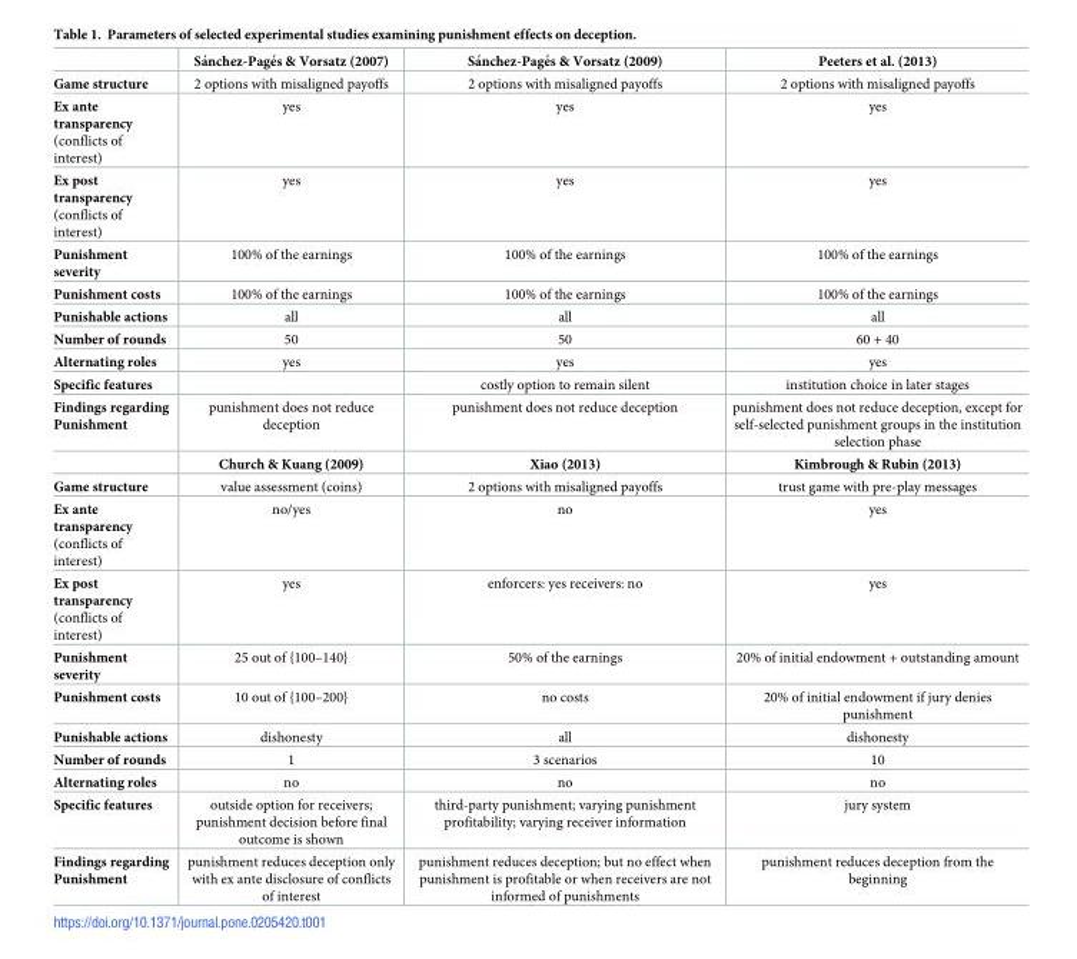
<table><thead><tr><td></td><td>Sa´nchez-Page´s &amp; Vorsatz (2007)</td><td>Sa´nchez-Page´s &amp; Vorsatz (2009)</td><td>Peeters et al. (2013)</td></tr></thead><tbody><tr><td>Game structure</td><td>2 options with misaligned payoffs</td><td>2 options with misaligned payoffs</td><td>2 options with misaligned payoffs</td></tr><tr><td>Ex ante transparency (conflicts of interest)</td><td>yes</td><td>yes</td><td>yes</td></tr><tr><td>Ex post transparency (conflicts of interest)</td><td>yes</td><td>yes</td><td>yes</td></tr><tr><td>Punishment severity</td><td>100% of the earnings</td><td>100% of the earnings</td><td>100% of the earnings</td></tr><tr><td>Punishment costs</td><td>100% of the earnings</td><td>100% of the earnings</td><td>100% of the earnings</td></tr><tr><td>Punishable actions</td><td>all</td><td>all</td><td>all</td></tr><tr><td>Number of rounds</td><td>50</td><td>50</td><td>60 + 40</td></tr><tr><td>Alternating roles</td><td>yes</td><td>yes</td><td>yes</td></tr><tr><td>Specific features</td><td></td><td>costly option to remain silent</td><td>institution choice in later stages</td></tr><tr><td rowspan="2">Findings regarding Punishment</td><td>punishment does not reduce deception</td><td>punishment does not reduce deception</td><td>punishment does not reduce deception, except for self-selected punishment groups in the institution selection phase</td></tr><tr><td>Church &amp; Kuang (2009)</td><td>Xiao (2013)</td><td>Kimbrough &amp; Rubin (2013)</td></tr><tr><td>Game structure</td><td>value assessment (coins)</td><td>2 options with misaligned payoffs</td><td>trust game with pre-play messages</td></tr><tr><td>Ex ante transparency (conflicts of interest)</td><td>no/yes</td><td>no</td><td>yes</td></tr><tr><td>Ex post transparency (conflicts of interest)</td><td>yes</td><td>enforcers: yes receivers: no</td><td>yes</td></tr><tr><td>Punishment severity</td><td>25 out of {100–140}</td><td>50% of the earnings</td><td>20% of initial endowment + outstanding amount</td></tr><tr><td>Punishment costs</td><td>10 out of {100–200}</td><td>no costs</td><td>20% of initial endowment if jury denies punishment</td></tr><tr><td>Punishable actions</td><td>dishonesty</td><td>all</td><td>dishonesty</td></tr><tr><td>Number of rounds</td><td>1</td><td>3 scenarios</td><td>10</td></tr><tr><td>Alternating roles</td><td>no</td><td>no</td><td>no</td></tr><tr><td>Specific features</td><td>outside option for receivers; punishment decision before final outcome is shown</td><td>third-party punishment; varying punishment profitability; varying receiver information</td><td>jury system</td></tr><tr><td>Findings regarding Punishment</td><td>punishment reduces deception only with ex ante disclosure of conflicts of interest</td><td>punishment reduces deception; but no effect when punishment is profitable or when receivers are not informed of punishments</td><td>punishment reduces deception from the beginning</td></tr></tbody></table>